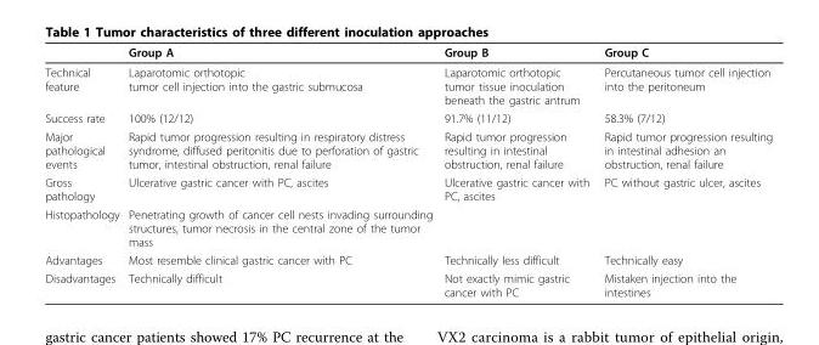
<table><thead><tr><td></td><td>Group A</td><td>Group B</td><td>Group C</td></tr></thead><tbody><tr><td>Technical feature</td><td>Laparotomic orthotopic tumor cell injection into the gastric submucosa</td><td>Laparotomic orthotopic tumor tissue inoculation beneath the gastric antrum</td><td>Percutaneous tumor cell injection into the peritoneum</td></tr><tr><td>Success rate</td><td>100% (12/12)</td><td>91.7% (11/12)</td><td>58.3% (7/12)</td></tr><tr><td>Major pathological events</td><td>Rapid tumor progression resulting in respiratory distress syndrome, diffused peritonitis due to perforation of gastric tumor, intestinal obstruction, renal failure</td><td>Rapid tumor progression resulting in intestinal obstruction, renal failure</td><td>Rapid tumor progression resulting in intestinal adhesion an obstruction, renal failure</td></tr><tr><td>Gross pathology</td><td>Ulcerative gastric cancer with PC, ascites</td><td>Ulcerative gastric cancer with PC, ascites</td><td>PC without gastric ulcer, ascites</td></tr><tr><td>Histopathology</td><td>Penetrating growth of cancer cell nests invading surrounding structures, tumor necrosis in the central zone of the tumor mass</td><td></td><td></td></tr><tr><td>Advantages</td><td>Most resemble clinical gastric cancer with PC</td><td>Technically less difficult</td><td>Technically easy</td></tr><tr><td>Disadvantages</td><td>Technically difficult</td><td>Not exactly mimic gastric cancer with PC</td><td>Mistaken injection into the intestines</td></tr></tbody></table>